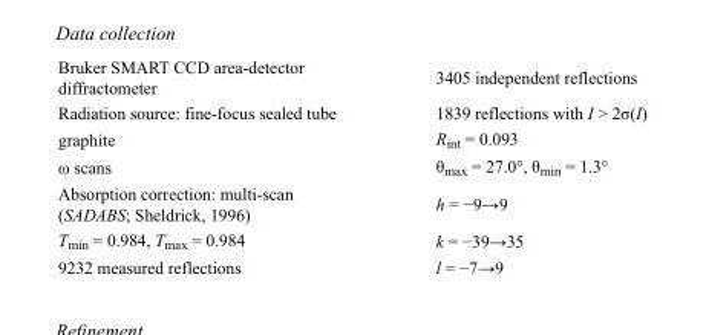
<table><tbody><tr><td>Bruker SMART CCD area-detector diffractometer</td><td>3405 independent reflections</td></tr><tr><td>Radiation source: fine-focus sealed tube</td><td>1839 reflections with I &gt; 2σ(I)</td></tr><tr><td>graphite</td><td>R<sub>int</sub> = 0.093</td></tr><tr><td>ω scans</td><td>θ<sub>max</sub> = 27.0°, θ<sub>min</sub> = 1.3°</td></tr><tr><td>Absorption correction: multi-scan (SADABS; Sheldrick, 1996)</td><td>h = −9→9</td></tr><tr><td>T<sub>min</sub> = 0.984, T<sub>max</sub> = 0.984</td><td>k = −39→35</td></tr><tr><td>9232 measured reflections</td><td>l = −7→9</td></tr></tbody></table>